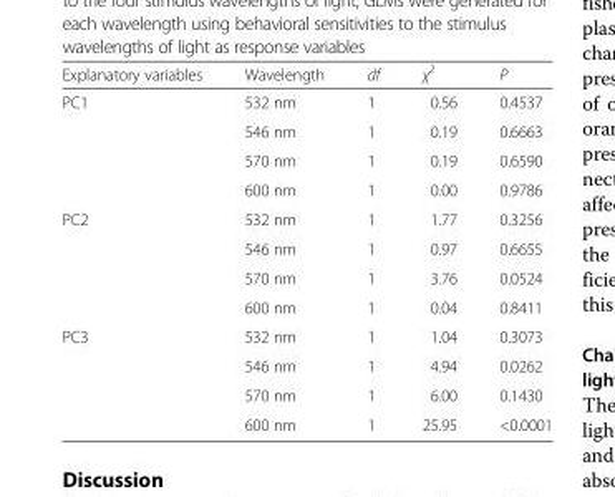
<table><thead><tr><td>Explanatory variables</td><td>Wavelength</td><td>df</td><td>χ<sup>2</sup></td><td>P</td></tr></thead><tbody><tr><td rowspan="4">PC1</td><td>532 nm</td><td>1</td><td>0.56</td><td>0.4537</td></tr><tr><td>546 nm</td><td>1</td><td>0.19</td><td>0.6663</td></tr><tr><td>570 nm</td><td>1</td><td>0.19</td><td>0.6590</td></tr><tr><td>600 nm</td><td>1</td><td>0.00</td><td>0.9786</td></tr><tr><td rowspan="4">PC2</td><td>532 nm</td><td>1</td><td>1.77</td><td>0.3256</td></tr><tr><td>546 nm</td><td>1</td><td>0.97</td><td>0.6655</td></tr><tr><td>570 nm</td><td>1</td><td>3.76</td><td>0.0524</td></tr><tr><td>600 nm</td><td>1</td><td>0.04</td><td>0.8411</td></tr><tr><td rowspan="4">PC3</td><td>532 nm</td><td>1</td><td>1.04</td><td>0.3073</td></tr><tr><td>546 nm</td><td>1</td><td>4.94</td><td>0.0262</td></tr><tr><td>570 nm</td><td>1</td><td>6.00</td><td>0.1430</td></tr><tr><td>600 nm</td><td>1</td><td>25.95</td><td>&lt;0.0001</td></tr></tbody></table>